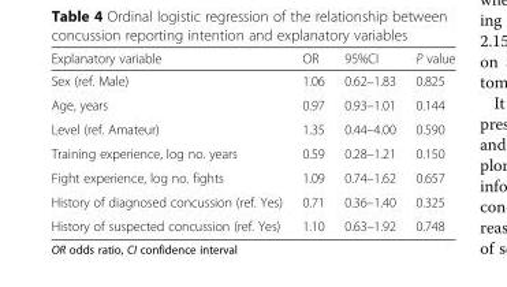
<table><thead><tr><td>Explanatory variable</td><td>OR</td><td>95%CI</td><td>P value</td></tr></thead><tbody><tr><td>Sex (ref. Male)</td><td>1.06</td><td>0.62–1.83</td><td>0.825</td></tr><tr><td>Age, years</td><td>0.97</td><td>0.93–1.01</td><td>0.144</td></tr><tr><td>Level (ref. Amateur)</td><td>1.35</td><td>0.44–4.00</td><td>0.590</td></tr><tr><td>Training experience, log no. years</td><td>0.59</td><td>0.28–1.21</td><td>0.150</td></tr><tr><td>Fight experience, log no. fights</td><td>1.09</td><td>0.74–1.62</td><td>0.657</td></tr><tr><td>History of diagnosed concussion (ref. Yes)</td><td>0.71</td><td>0.36–1.40</td><td>0.325</td></tr><tr><td>History of suspected concussion (ref. Yes)</td><td>1.10</td><td>0.63–1.92</td><td>0.748</td></tr></tbody></table>